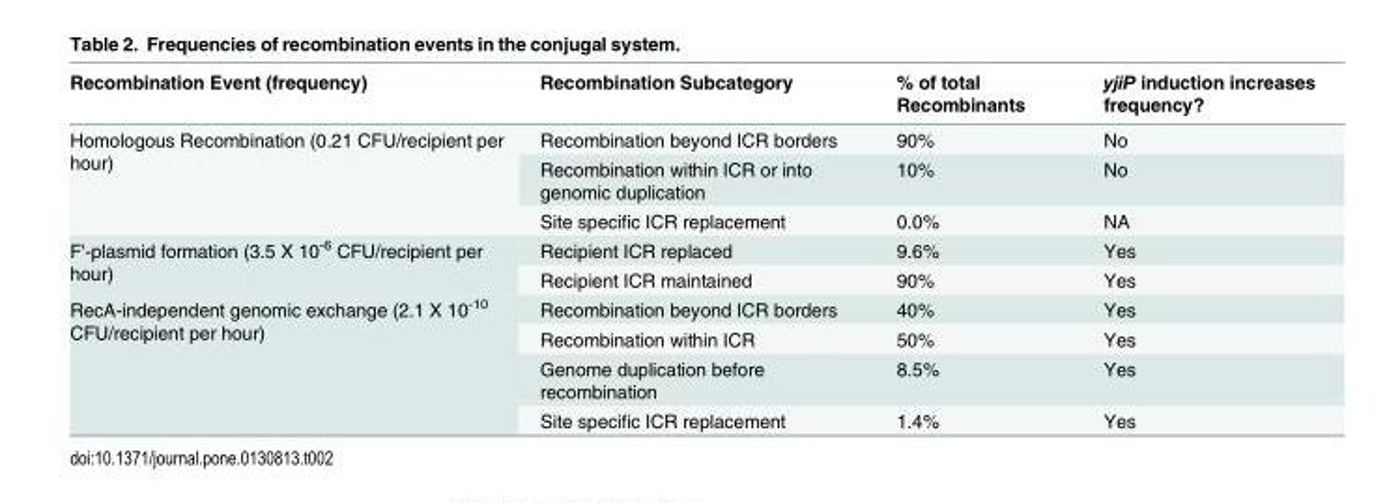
<table><thead><tr><td>Recombination Event (frequency)</td><td>Recombination Subcategory</td><td>% of total Recombinants</td><td>yjiP induction increases frequency?</td></tr></thead><tbody><tr><td rowspan="3">Homologous Recombination (0.21 CFU/recipient per hour)</td><td>Recombination beyond ICR borders</td><td>90%</td><td>No</td></tr><tr><td>Recombination within ICR or into genomic duplication</td><td>10%</td><td>No</td></tr><tr><td>Site specific ICR replacement</td><td>0.0%</td><td>NA</td></tr><tr><td rowspan="2">F&#x27;-plasmid formation (3.5 X 10<sup>-6</sup> CFU/recipient per hour)</td><td>Recipient ICR replaced</td><td>9.6%</td><td>Yes</td></tr><tr><td>Recipient ICR maintained</td><td>90%</td><td>Yes</td></tr><tr><td rowspan="4">RecA-independent genomic exchange (2.1 X 10<sup>-10</sup> CFU/recipient per hour)</td><td>Recombination beyond ICR borders</td><td>40%</td><td>Yes</td></tr><tr><td>Recombination within ICR</td><td>50%</td><td>Yes</td></tr><tr><td>Genome duplication before recombination</td><td>8.5%</td><td>Yes</td></tr><tr><td>Site specific ICR replacement</td><td>1.4%</td><td>Yes</td></tr></tbody></table>